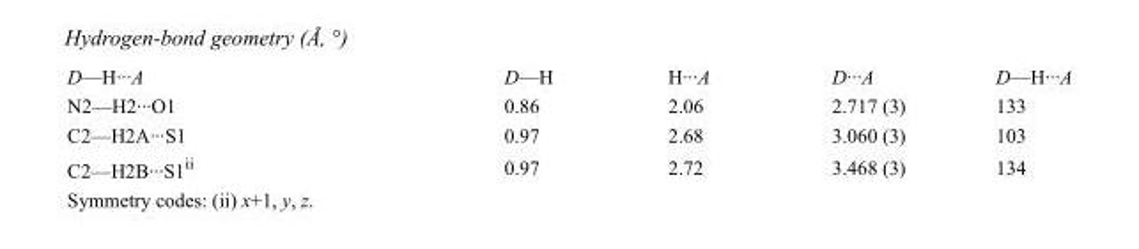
<table><tbody><tr><td>D—H···A</td><td>D—H</td><td>H···A</td><td>D···A</td><td>D—H···A</td></tr><tr><td>N2—H2···O1</td><td>0.86</td><td>2.06</td><td>2.717 (3)</td><td>133</td></tr><tr><td>C2—H2A···S1</td><td>0.97</td><td>2.68</td><td>3.060 (3)</td><td>103</td></tr><tr><td>C2—H2B···S1<sup>ii</sup></td><td>0.97</td><td>2.72</td><td>3.468 (3)</td><td>134</td></tr></tbody></table>